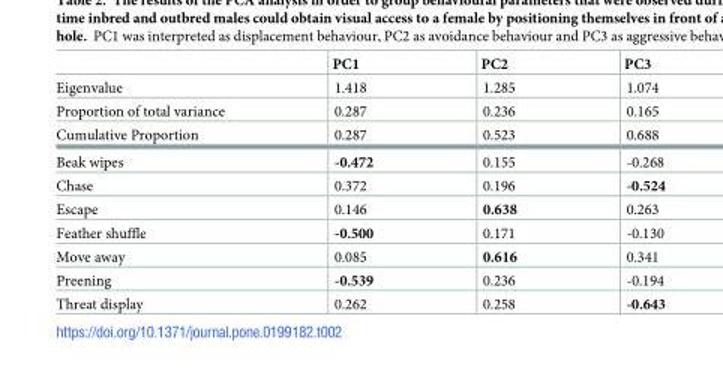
<table><thead><tr><td></td><td>PC1</td><td>PC2</td><td>PC3</td></tr></thead><tbody><tr><td>Eigenvalue</td><td>1.418</td><td>1.285</td><td>1.074</td></tr><tr><td>Proportion of total variance</td><td>0.287</td><td>0.236</td><td>0.165</td></tr><tr><td>Cumulative Proportion</td><td>0.287</td><td>0.523</td><td>0.688</td></tr><tr><td>Beak wipes</td><td>-0.472</td><td>0.155</td><td>-0.268</td></tr><tr><td>Chase</td><td>0.372</td><td>0.196</td><td>-0.524</td></tr><tr><td>Escape</td><td>0.146</td><td>0.638</td><td>0.263</td></tr><tr><td>Feather shuffle</td><td>-0.500</td><td>0.171</td><td>-0.130</td></tr><tr><td>Move away</td><td>0.085</td><td>0.616</td><td>0.341</td></tr><tr><td>Preening</td><td>-0.539</td><td>0.236</td><td>-0.194</td></tr><tr><td>Threat display</td><td>0.262</td><td>0.258</td><td>-0.643</td></tr></tbody></table>